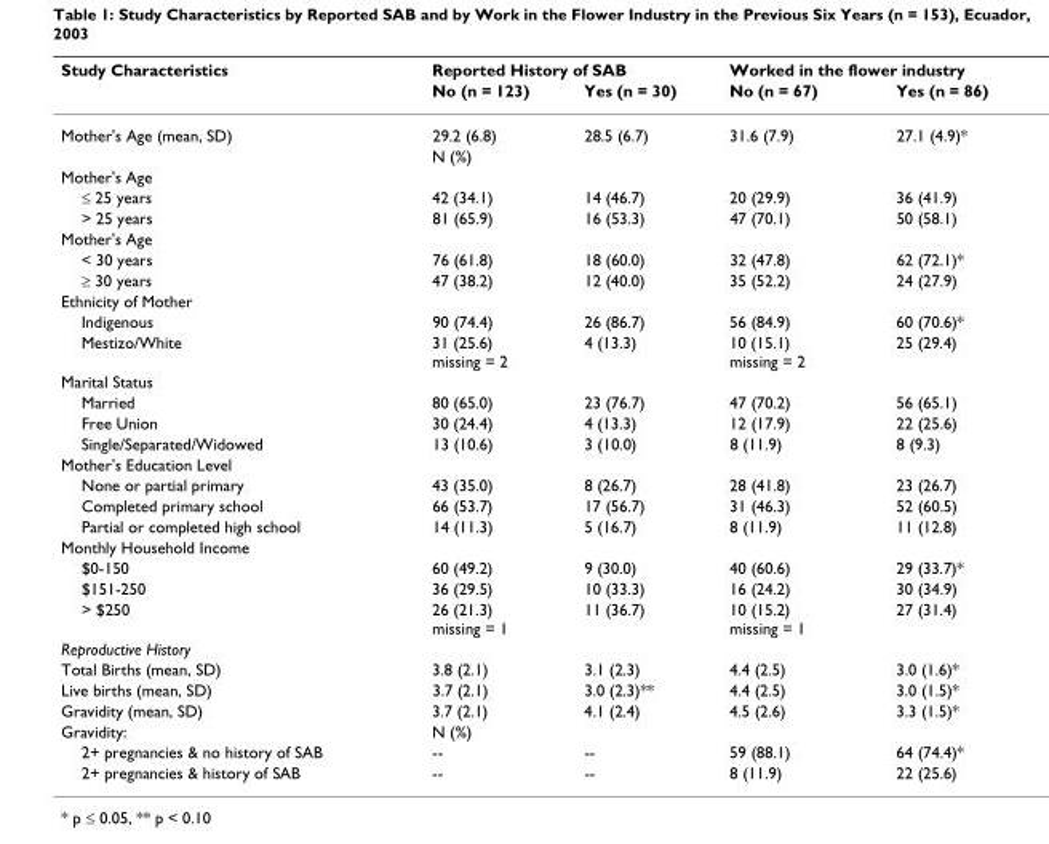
<table><thead><tr><td rowspan="2">Study Characteristics</td><td colspan="2">Reported History of SAB</td><td colspan="2">Worked in the flower industry</td></tr><tr><td>No (n = 123)</td><td>Yes (n = 30)</td><td>No (n = 67)</td><td>Yes (n = 86)</td></tr></thead><tbody><tr><td rowspan="2">Mother&#x27;s Age (mean, SD)</td><td>29.2 (6.8)</td><td>28.5 (6.7)</td><td>31.6 (7.9)</td><td>27.1 (4.9)*</td></tr><tr><td>N (%)</td><td></td><td></td><td></td></tr><tr><td colspan="5">Mother&#x27;s Age</td></tr><tr><td>≤ 25 years</td><td>42 (34.1)</td><td>14 (46.7)</td><td>20 (29.9)</td><td>36 (41.9)</td></tr><tr><td>&gt; 25 years</td><td>81 (65.9)</td><td>16 (53.3)</td><td>47 (70.1)</td><td>50 (58.1)</td></tr><tr><td colspan="5">Mother&#x27;s Age</td></tr><tr><td>&lt; 30 years</td><td>76 (61.8)</td><td>18 (60.0)</td><td>32 (47.8)</td><td>62 (72.1)*</td></tr><tr><td>≥ 30 years</td><td>47 (38.2)</td><td>12 (40.0)</td><td>35 (52.2)</td><td>24 (27.9)</td></tr><tr><td colspan="5">Ethnicity of Mother</td></tr><tr><td>Indigenous</td><td>90 (74.4)</td><td>26 (86.7)</td><td>56 (84.9)</td><td>60 (70.6)*</td></tr><tr><td>Mestizo/White</td><td>31 (25.6) missing = 2</td><td>4 (13.3)</td><td>10 (15.1) missing = 2</td><td>25 (29.4)</td></tr><tr><td colspan="5">Marital Status</td></tr><tr><td>Married</td><td>80 (65.0)</td><td>23 (76.7)</td><td>47 (70.2)</td><td>56 (65.1)</td></tr><tr><td>Free Union</td><td>30 (24.4)</td><td>4 (13.3)</td><td>12 (17.9)</td><td>22 (25.6)</td></tr><tr><td>Single/Separated/Widowed</td><td>13 (10.6)</td><td>3 (10.0)</td><td>8 (11.9)</td><td>8 (9.3)</td></tr><tr><td colspan="5">Mother&#x27;s Education Level</td></tr><tr><td>None or partial primary</td><td>43 (35.0)</td><td>8 (26.7)</td><td>28 (41.8)</td><td>23 (26.7)</td></tr><tr><td>Completed primary school</td><td>66 (53.7)</td><td>17 (56.7)</td><td>31 (46.3)</td><td>52 (60.5)</td></tr><tr><td>Partial or completed high school</td><td>14 (11.3)</td><td>5 (16.7)</td><td>8 (11.9)</td><td>11 (12.8)</td></tr><tr><td colspan="5">Monthly Household Income</td></tr><tr><td>$0-150</td><td>60 (49.2)</td><td>9 (30.0)</td><td>40 (60.6)</td><td>29 (33.7)*</td></tr><tr><td>$151-250</td><td>36 (29.5)</td><td>10 (33.3)</td><td>16 (24.2)</td><td>30 (34.9)</td></tr><tr><td>&gt; $250</td><td>26 (21.3) missing = 1</td><td>11 (36.7)</td><td>10 (15.2) missing = 1</td><td>27 (31.4)</td></tr><tr><td colspan="5">Reproductive History</td></tr><tr><td>Total Births (mean, SD)</td><td>3.8 (2.1)</td><td>3.1 (2.3)</td><td>4.4 (2.5)</td><td>3.0 (1.6)*</td></tr><tr><td>Live births (mean, SD)</td><td>3.7 (2.1)</td><td>3.0 (2.3)**</td><td>4.4 (2.5)</td><td>3.0 (1.5)*</td></tr><tr><td>Gravidity (mean, SD)</td><td>3.7 (2.1)</td><td>4.1 (2.4)</td><td>4.5 (2.6)</td><td>3.3 (1.5)*</td></tr><tr><td>Gravidity:</td><td>N (%)</td><td></td><td></td><td></td></tr><tr><td>2+ pregnancies &amp; no history of SAB</td><td>--</td><td>--</td><td>59 (88.1)</td><td>64 (74.4)*</td></tr><tr><td>2+ pregnancies &amp; history of SAB</td><td>--</td><td>--</td><td>8 (11.9)</td><td>22 (25.6)</td></tr></tbody></table>